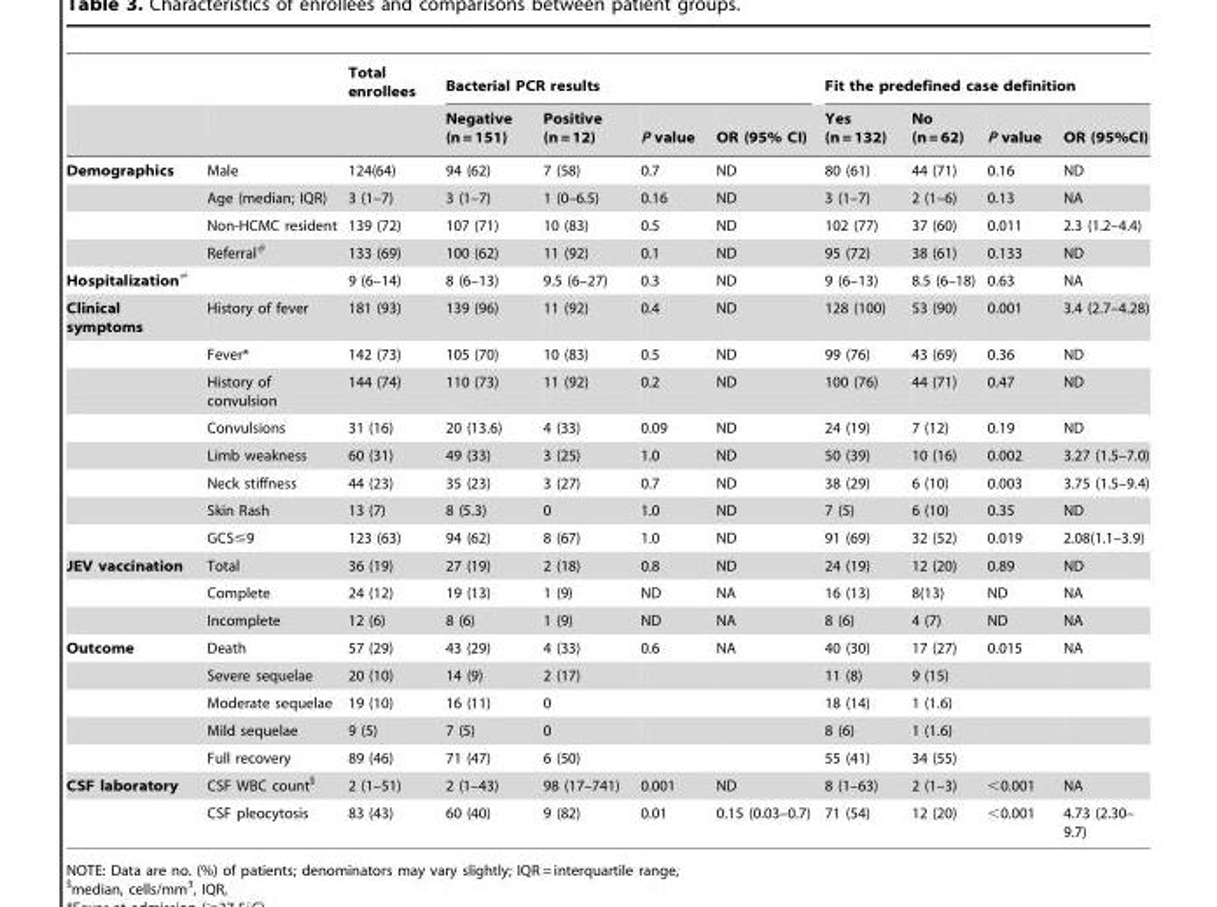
<table><thead><tr><td rowspan="2"></td><td rowspan="2"></td><td rowspan="2">Total enrollees</td><td colspan="4">Bacterial PCR results</td><td colspan="4">Fit the predefined case definition</td></tr><tr><td>Negative (n = 151)</td><td>Positive (n = 12)</td><td>P value</td><td>OR (95% CI)</td><td>Yes (n = 132)</td><td>No (n = 62)</td><td>P value</td><td>OR (95%CI)</td></tr></thead><tbody><tr><td rowspan="4">Demographics</td><td>Male</td><td>124(64)</td><td>94 (62)</td><td>7 (58)</td><td>0.7</td><td>ND</td><td>80 (61)</td><td>44 (71)</td><td>0.16</td><td>ND</td></tr><tr><td>Age (median; IQR)</td><td>3 (1–7)</td><td>3 (1–7)</td><td>1 (0–6.5)</td><td>0.16</td><td>ND</td><td>3 (1–7)</td><td>2 (1–6)</td><td>0.13</td><td>NA</td></tr><tr><td>Non-HCMC resident</td><td>139 (72)</td><td>107 (71)</td><td>10 (83)</td><td>0.5</td><td>ND</td><td>102 (77)</td><td>37 (60)</td><td>0.011</td><td>2.3 (1.2–4.4)</td></tr><tr><td>Referral#</td><td>133 (69)</td><td>100 (62)</td><td>11 (92)</td><td>0.1</td><td>ND</td><td>95 (72)</td><td>38 (61)</td><td>0.133</td><td>ND</td></tr><tr><td colspan="2">Hospitalization≠</td><td>9 (6–14)</td><td>8 (6–13)</td><td>9.5 (6–27)</td><td>0.3</td><td>ND</td><td>9 (6–13)</td><td>8.5 (6–18)</td><td>0.63</td><td>NA</td></tr><tr><td rowspan="8">Clinical symptoms</td><td>History of fever</td><td>181 (93)</td><td>139 (96)</td><td>11 (92)</td><td>0.4</td><td>ND</td><td>128 (100)</td><td>53 (90)</td><td>0.001</td><td>3.4 (2.7–4.28)</td></tr><tr><td>Fever*</td><td>142 (73)</td><td>105 (70)</td><td>10 (83)</td><td>0.5</td><td>ND</td><td>99 (76)</td><td>43 (69)</td><td>0.36</td><td>ND</td></tr><tr><td>History of convulsion</td><td>144 (74)</td><td>110 (73)</td><td>11 (92)</td><td>0.2</td><td>ND</td><td>100 (76)</td><td>44 (71)</td><td>0.47</td><td>ND</td></tr><tr><td>Convulsions</td><td>31 (16)</td><td>20 (13.6)</td><td>4 (33)</td><td>0.09</td><td>ND</td><td>24 (19)</td><td>7 (12)</td><td>0.19</td><td>ND</td></tr><tr><td>Limb weakness</td><td>60 (31)</td><td>49 (33)</td><td>3 (25)</td><td>1.0</td><td>ND</td><td>50 (39)</td><td>10 (16)</td><td>0.002</td><td>3.27 (1.5–7.0)</td></tr><tr><td>Neck stiffness</td><td>44 (23)</td><td>35 (23)</td><td>3 (27)</td><td>0.7</td><td>ND</td><td>38 (29)</td><td>6 (10)</td><td>0.003</td><td>3.75 (1.5–9.4)</td></tr><tr><td>Skin Rash</td><td>13 (7)</td><td>8 (5.3)</td><td>0</td><td>1.0</td><td>ND</td><td>7 (5)</td><td>6 (10)</td><td>0.35</td><td>ND</td></tr><tr><td>GCS≤9</td><td>123 (63)</td><td>94 (62)</td><td>8 (67)</td><td>1.0</td><td>ND</td><td>91 (69)</td><td>32 (52)</td><td>0.019</td><td>2.08(1.1–3.9)</td></tr><tr><td rowspan="3">JEV vaccination</td><td>Total</td><td>36 (19)</td><td>27 (19)</td><td>2 (18)</td><td>0.8</td><td>ND</td><td>24 (19)</td><td>12 (20)</td><td>0.89</td><td>ND</td></tr><tr><td>Complete</td><td>24 (12)</td><td>19 (13)</td><td>1 (9)</td><td>ND</td><td>NA</td><td>16 (13)</td><td>8(13)</td><td>ND</td><td>NA</td></tr><tr><td>Incomplete</td><td>12 (6)</td><td>8 (6)</td><td>1 (9)</td><td>ND</td><td>NA</td><td>8 (6)</td><td>4 (7)</td><td>ND</td><td>NA</td></tr><tr><td rowspan="5">Outcome</td><td>Death</td><td>57 (29)</td><td>43 (29)</td><td>4 (33)</td><td>0.6</td><td>NA</td><td>40 (30)</td><td>17 (27)</td><td>0.015</td><td>NA</td></tr><tr><td>Severe sequelae</td><td>20 (10)</td><td>14 (9)</td><td>2 (17)</td><td></td><td></td><td>11 (8)</td><td>9 (15)</td><td></td><td></td></tr><tr><td>Moderate sequelae</td><td>19 (10)</td><td>16 (11)</td><td>0</td><td></td><td></td><td>18 (14)</td><td>1 (1.6)</td><td></td><td></td></tr><tr><td>Mild sequelae</td><td>9 (5)</td><td>7 (5)</td><td>0</td><td></td><td></td><td>8 (6)</td><td>1 (1.6)</td><td></td><td></td></tr><tr><td>Full recovery</td><td>89 (46)</td><td>71 (47)</td><td>6 (50)</td><td></td><td></td><td>55 (41)</td><td>34 (55)</td><td></td><td></td></tr><tr><td rowspan="2">CSF laboratory</td><td>CSF WBC count$</td><td>2 (1–51)</td><td>2 (1–43)</td><td>98 (17–741)</td><td>0.001</td><td>ND</td><td>8 (1–63)</td><td>2 (1–3)</td><td>&lt;0.001</td><td>NA</td></tr><tr><td>CSF pleocytosis</td><td>83 (43)</td><td>60 (40)</td><td>9 (82)</td><td>0.01</td><td>0.15 (0.03–0.7)</td><td>71 (54)</td><td>12 (20)</td><td>&lt;0.001</td><td>4.73 (2.30– 9.7)</td></tr></tbody></table>